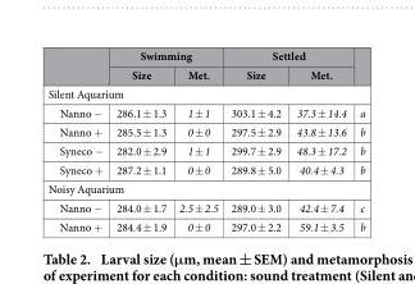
<table><thead><tr><td rowspan="2"></td><td colspan="2">Swimming</td><td colspan="2">Settled</td><td rowspan="2"></td></tr><tr><td>Size</td><td>Met.</td><td>Size</td><td>Met.</td></tr></thead><tbody><tr><td colspan="6">Silent Aquarium</td></tr><tr><td>Nanno −</td><td>286.1 ± 1.3</td><td>1 ± 1</td><td>303.1 ± 4.2</td><td>37.3 ± 14.4</td><td>a</td></tr><tr><td>Nanno +</td><td>285.5 ± 1.3</td><td>0 ± 0</td><td>297.5 ± 2.9</td><td>43.8 ± 13.6</td><td>b</td></tr><tr><td>Syneco −</td><td>282.0 ± 2.9</td><td>1 ± 1</td><td>299.7 ± 2.9</td><td>48.3 ± 17.2</td><td>b</td></tr><tr><td>Syneco +</td><td>287.2 ± 1.1</td><td>0 ± 0</td><td>289.8 ± 5.0</td><td>40.4 ± 4.3</td><td>b</td></tr><tr><td colspan="6">Noisy Aquarium</td></tr><tr><td>Nanno −</td><td>284.0 ± 1.7</td><td>2.5 ± 2.5</td><td>289.0 ± 3.0</td><td>42.4 ± 7.4</td><td>c</td></tr><tr><td>Nanno +</td><td>284.4 ± 1.9</td><td>0 ± 0</td><td>297.0 ± 2.2</td><td>59.1 ± 3.5</td><td>b</td></tr></tbody></table>